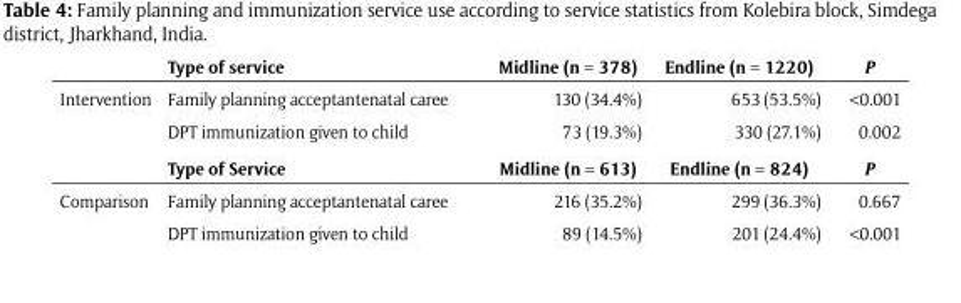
<table><thead><tr><td></td><td>Type of service</td><td>Midline (n = 378)</td><td>Endline (n = 1220)</td><td>P</td></tr></thead><tbody><tr><td rowspan="3">Intervention</td><td>Family planning acceptantenatal caree</td><td>130 (34.4%)</td><td>653 (53.5%)</td><td>&lt;0.001</td></tr><tr><td>DPT immunization given to child</td><td>73 (19.3%)</td><td>330 (27.1%)</td><td>0.002</td></tr><tr><td>Type of Service</td><td>Midline (n = 613)</td><td>Endline (n = 824)</td><td>P</td></tr><tr><td rowspan="2">Comparison</td><td>Family planning acceptantenatal caree</td><td>216 (35.2%)</td><td>299 (36.3%)</td><td>0.667</td></tr><tr><td>DPT immunization given to child</td><td>89 (14.5%)</td><td>201 (24.4%)</td><td>&lt;0.001</td></tr></tbody></table>